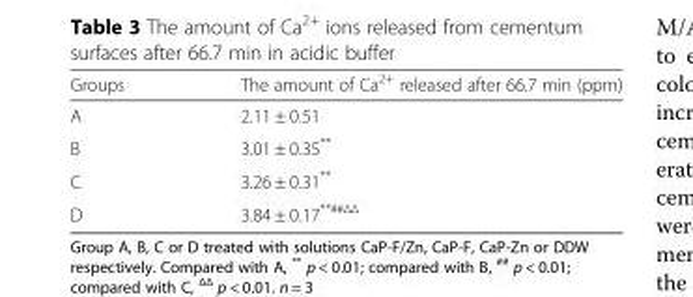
<table><thead><tr><td>Groups</td><td>The amount of Ca<sup>2+</sup> released after 66.7 min (ppm)</td></tr></thead><tbody><tr><td>A</td><td>2.11 ± 0.51</td></tr><tr><td>B</td><td>3.01 ± 0.35**</td></tr><tr><td>C</td><td>3.26 ± 0.31**</td></tr><tr><td>D</td><td>3.84 ± 0.17**##ΔΔ</td></tr></tbody></table>